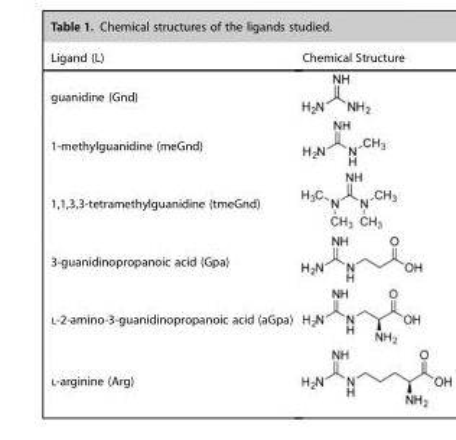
<table><thead><tr><td>Ligand (L)</td><td>Chemical Structure</td></tr></thead><tbody><tr><td colspan="2">guanidine (Gnd)</td></tr><tr><td colspan="2">1-methylguanidine (meGnd)</td></tr><tr><td colspan="2">1,1,3,3-tetramethylguanidine (tmeGnd)</td></tr><tr><td colspan="2">3-guanidinopropanoic acid (Gpa)</td></tr><tr><td colspan="2">l-2-amino-3-guanidinopropanoic acid (aGpa)</td></tr><tr><td>l-arginine (Arg)</td><td></td></tr></tbody></table>